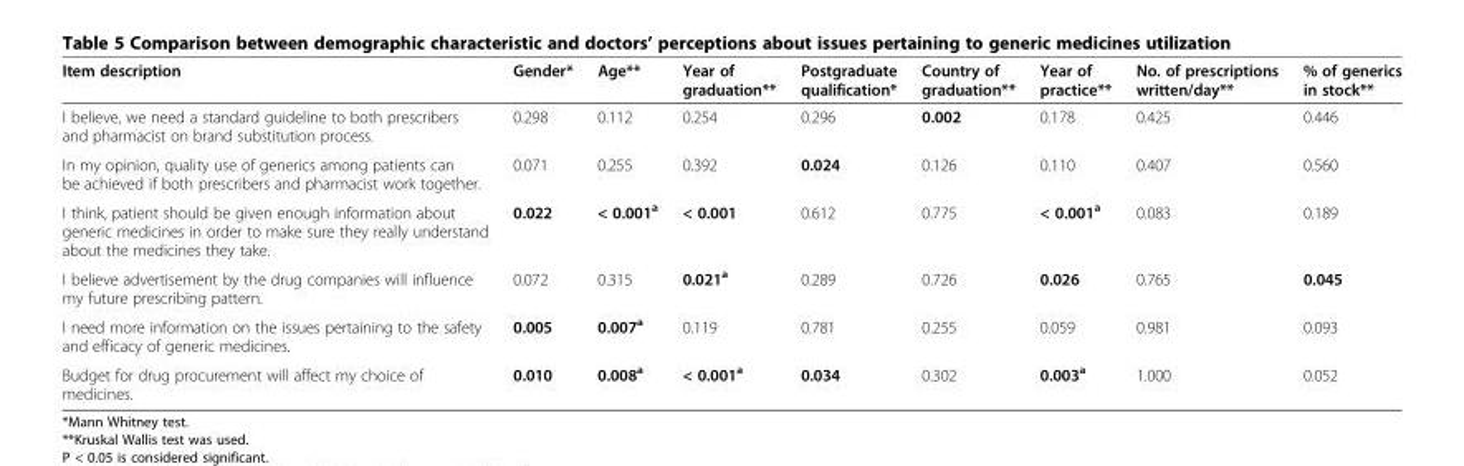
<table><thead><tr><td>Item description</td><td>Gender*</td><td>Age**</td><td>Year of graduation**</td><td>Postgraduate qualification*</td><td>Country of graduation**</td><td>Year of practice**</td><td>No. of prescriptions written/day**</td><td>% of generics in stock**</td></tr></thead><tbody><tr><td>I believe, we need a standard guideline to both prescribers and pharmacist on brand substitution process.</td><td>0.298</td><td>0.112</td><td>0.254</td><td>0.296</td><td>0.002</td><td>0.178</td><td>0.425</td><td>0.446</td></tr><tr><td>In my opinion, quality use of generics among patients can be achieved if both prescribers and pharmacist work together.</td><td>0.071</td><td>0.255</td><td>0.392</td><td>0.024</td><td>0.126</td><td>0.110</td><td>0.407</td><td>0.560</td></tr><tr><td>I think, patient should be given enough information about generic medicines in order to make sure they really understand about the medicines they take.</td><td>0.022</td><td>&lt; 0.001<sup>a</sup></td><td>&lt; 0.001</td><td>0.612</td><td>0.775</td><td>&lt; 0.001<sup>a</sup></td><td>0.083</td><td>0.189</td></tr><tr><td>I believe advertisement by the drug companies will influence my future prescribing pattern.</td><td>0.072</td><td>0.315</td><td>0.021<sup>a</sup></td><td>0.289</td><td>0.726</td><td>0.026</td><td>0.765</td><td>0.045</td></tr><tr><td>I need more information on the issues pertaining to the safety and efficacy of generic medicines.</td><td>0.005</td><td>0.007<sup>a</sup></td><td>0.119</td><td>0.781</td><td>0.255</td><td>0.059</td><td>0.981</td><td>0.093</td></tr><tr><td>Budget for drug procurement will affect my choice of medicines.</td><td>0.010</td><td>0.008<sup>a</sup></td><td>&lt; 0.001<sup>a</sup></td><td>0.034</td><td>0.302</td><td>0.003<sup>a</sup></td><td>1.000</td><td>0.052</td></tr></tbody></table>